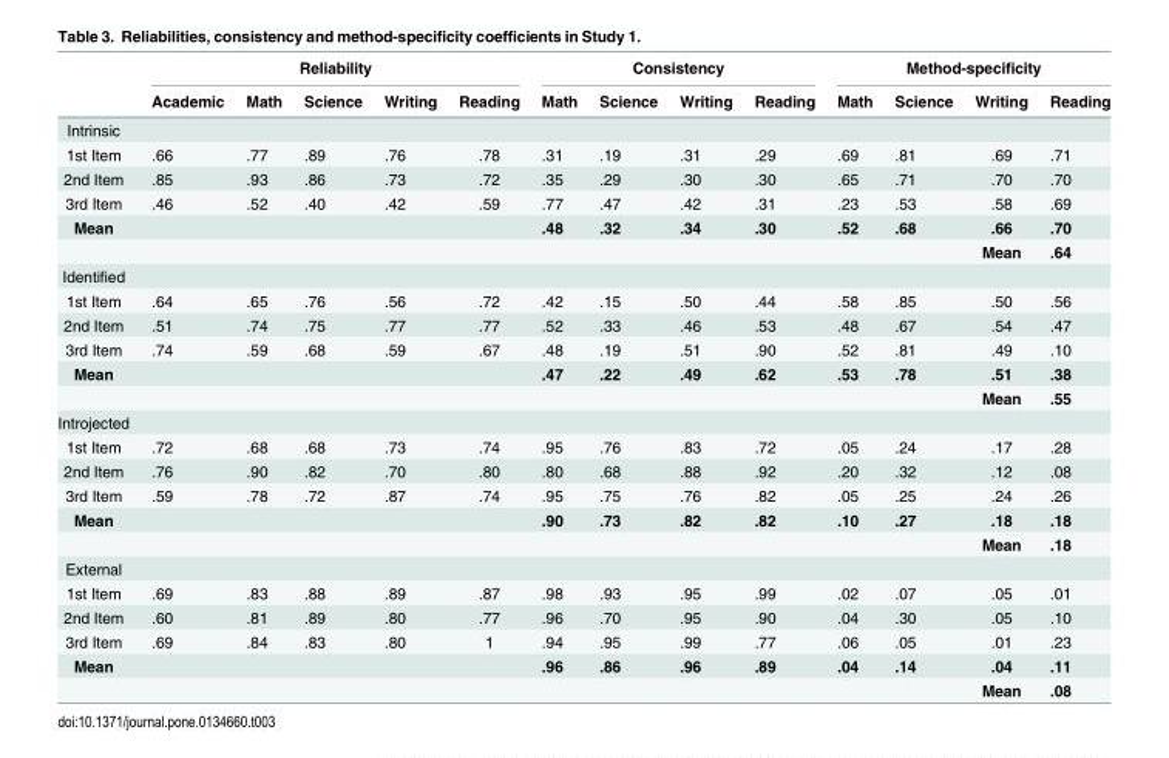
<table><thead><tr><td rowspan="2"></td><td colspan="5">Reliability</td><td colspan="4">Consistency</td><td colspan="4">Method-specificity</td></tr><tr><td>Academic</td><td>Math</td><td>Science</td><td>Writing</td><td>Reading</td><td>Math</td><td>Science</td><td>Writing</td><td>Reading</td><td>Math</td><td>Science</td><td>Writing</td><td>Reading</td></tr></thead><tbody><tr><td colspan="14">Intrinsic</td></tr><tr><td>1st Item</td><td>.66</td><td>.77</td><td>.89</td><td>.76</td><td>.78</td><td>.31</td><td>.19</td><td>.31</td><td>.29</td><td>.69</td><td>.81</td><td>.69</td><td>.71</td></tr><tr><td>2nd Item</td><td>.85</td><td>.93</td><td>.86</td><td>.73</td><td>.72</td><td>.35</td><td>.29</td><td>.30</td><td>.30</td><td>.65</td><td>.71</td><td>.70</td><td>.70</td></tr><tr><td>3rd Item</td><td>.46</td><td>.52</td><td>.40</td><td>.42</td><td>.59</td><td>.77</td><td>.47</td><td>.42</td><td>.31</td><td>.23</td><td>.53</td><td>.58</td><td>.69</td></tr><tr><td rowspan="2">Mean</td><td></td><td></td><td></td><td></td><td></td><td>.48</td><td>.32</td><td>.34</td><td>.30</td><td>.52</td><td>.68</td><td>.66</td><td>.70</td></tr><tr><td></td><td></td><td></td><td></td><td></td><td></td><td></td><td></td><td></td><td></td><td></td><td>Mean</td><td>.64</td></tr><tr><td colspan="14">Identified</td></tr><tr><td>1st Item</td><td>.64</td><td>.65</td><td>.76</td><td>.56</td><td>.72</td><td>.42</td><td>.15</td><td>.50</td><td>.44</td><td>.58</td><td>.85</td><td>.50</td><td>.56</td></tr><tr><td>2nd Item</td><td>.51</td><td>.74</td><td>.75</td><td>.77</td><td>.77</td><td>.52</td><td>.33</td><td>.46</td><td>.53</td><td>.48</td><td>.67</td><td>.54</td><td>.47</td></tr><tr><td>3rd Item</td><td>.74</td><td>.59</td><td>.68</td><td>.59</td><td>.67</td><td>.48</td><td>.19</td><td>.51</td><td>.90</td><td>.52</td><td>.81</td><td>.49</td><td>.10</td></tr><tr><td rowspan="2">Mean</td><td></td><td></td><td></td><td></td><td></td><td>.47</td><td>.22</td><td>.49</td><td>.62</td><td>.53</td><td>.78</td><td>.51</td><td>.38</td></tr><tr><td></td><td></td><td></td><td></td><td></td><td></td><td></td><td></td><td></td><td></td><td></td><td>Mean</td><td>.55</td></tr><tr><td colspan="14">Introjected</td></tr><tr><td>1st Item</td><td>.72</td><td>.68</td><td>.68</td><td>.73</td><td>.74</td><td>.95</td><td>.76</td><td>.83</td><td>.72</td><td>.05</td><td>.24</td><td>.17</td><td>.28</td></tr><tr><td>2nd Item</td><td>.76</td><td>.90</td><td>.82</td><td>.70</td><td>.80</td><td>.80</td><td>.68</td><td>.88</td><td>.92</td><td>.20</td><td>.32</td><td>.12</td><td>.08</td></tr><tr><td>3rd Item</td><td>.59</td><td>.78</td><td>.72</td><td>.87</td><td>.74</td><td>.95</td><td>.75</td><td>.76</td><td>.82</td><td>.05</td><td>.25</td><td>.24</td><td>.26</td></tr><tr><td rowspan="2">Mean</td><td></td><td></td><td></td><td></td><td></td><td>.90</td><td>.73</td><td>.82</td><td>.82</td><td>.10</td><td>.27</td><td>.18</td><td>.18</td></tr><tr><td></td><td></td><td></td><td></td><td></td><td></td><td></td><td></td><td></td><td></td><td></td><td>Mean</td><td>.18</td></tr><tr><td colspan="14">External</td></tr><tr><td>1st Item</td><td>.69</td><td>.83</td><td>.88</td><td>.89</td><td>.87</td><td>.98</td><td>.93</td><td>.95</td><td>.99</td><td>.02</td><td>.07</td><td>.05</td><td>.01</td></tr><tr><td>2nd Item</td><td>.60</td><td>.81</td><td>.89</td><td>.80</td><td>.77</td><td>.96</td><td>.70</td><td>.95</td><td>.90</td><td>.04</td><td>.30</td><td>.05</td><td>.10</td></tr><tr><td>3rd Item</td><td>.69</td><td>.84</td><td>.83</td><td>.80</td><td>1</td><td>.94</td><td>.95</td><td>.99</td><td>.77</td><td>.06</td><td>.05</td><td>.01</td><td>.23</td></tr><tr><td rowspan="2">Mean</td><td></td><td></td><td></td><td></td><td></td><td>.96</td><td>.86</td><td>.96</td><td>.89</td><td>.04</td><td>.14</td><td>.04</td><td>.11</td></tr><tr><td></td><td></td><td></td><td></td><td></td><td></td><td></td><td></td><td></td><td></td><td></td><td>Mean</td><td>.08</td></tr></tbody></table>